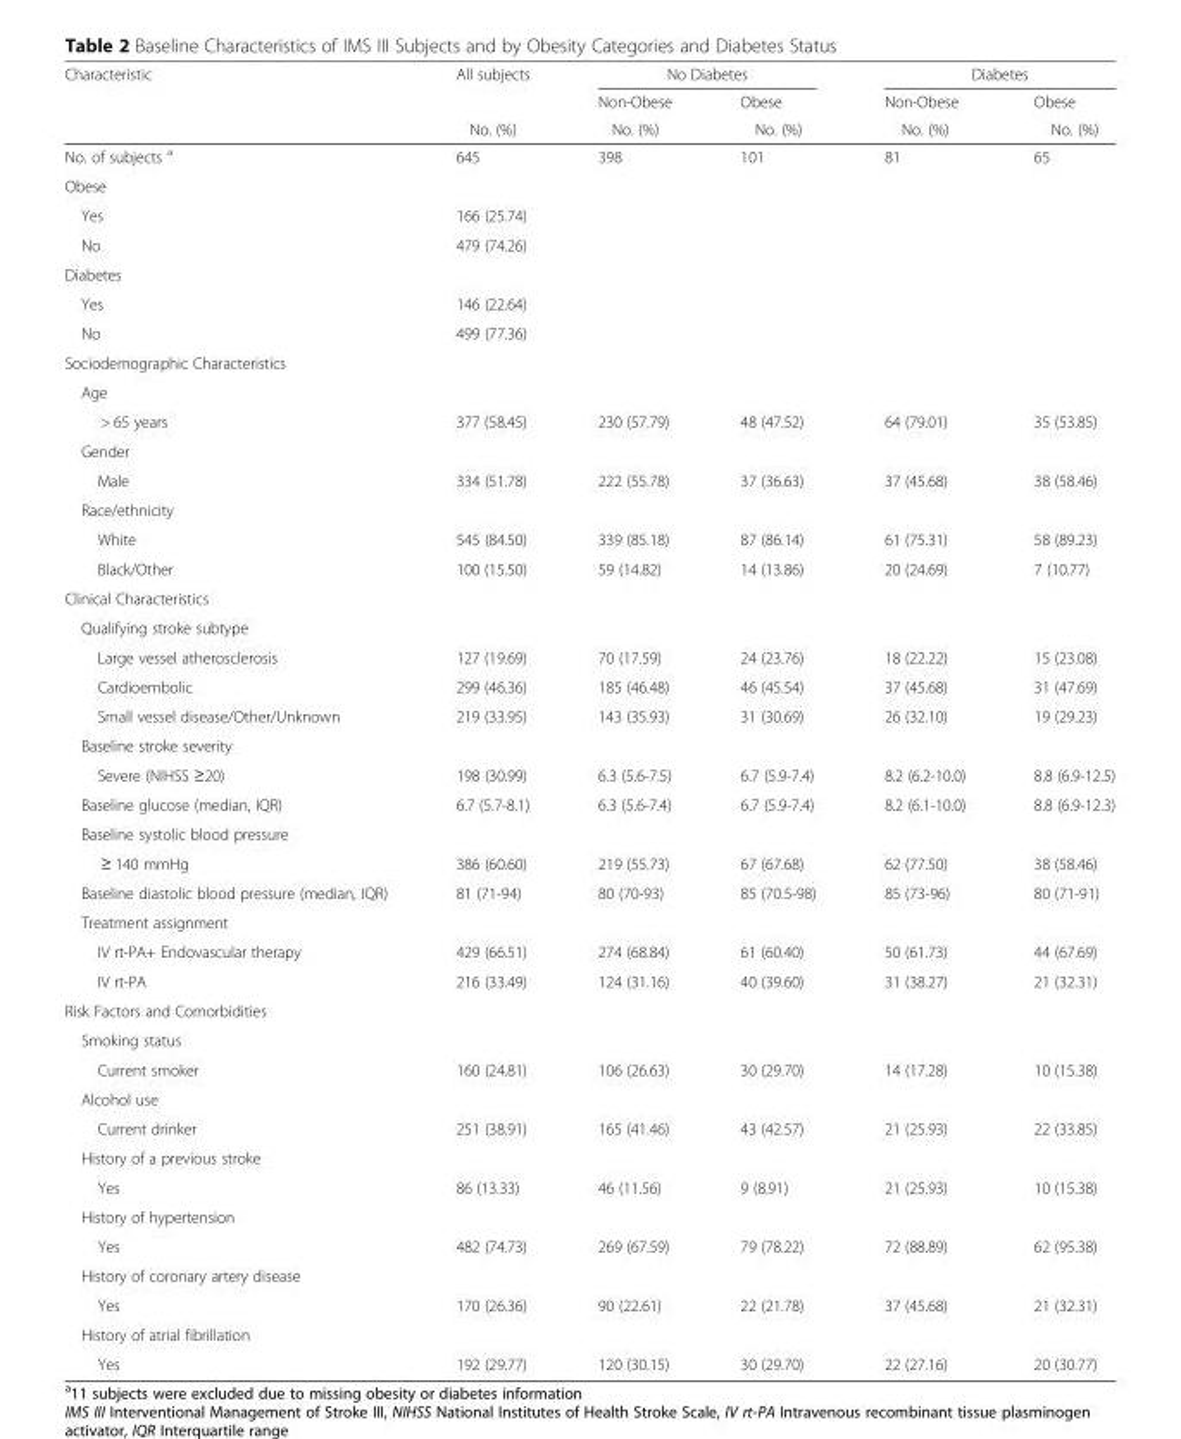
<table><thead><tr><td rowspan="3">Characteristic</td><td rowspan="3">All subjects No. (%)</td><td colspan="2">No Diabetes</td><td colspan="2">Diabetes</td></tr><tr><td rowspan="2">Non-Obese No. (%)</td><td rowspan="2">Obese No. (%)</td><td rowspan="2">Non-Obese No. (%)</td><td rowspan="2">Obese No. (%)</td></tr><tr></tr></thead><tbody><tr><td>No. of subjects <sup>a</sup></td><td>645</td><td>398</td><td>101</td><td>81</td><td>65</td></tr><tr><td colspan="6">Obese</td></tr><tr><td>Yes</td><td>166 (25.74)</td><td></td><td></td><td></td><td></td></tr><tr><td>No</td><td>479 (74.26)</td><td></td><td></td><td></td><td></td></tr><tr><td colspan="6">Diabetes</td></tr><tr><td>Yes</td><td>146 (22.64)</td><td></td><td></td><td></td><td></td></tr><tr><td>No</td><td>499 (77.36)</td><td></td><td></td><td></td><td></td></tr><tr><td colspan="6">Sociodemographic Characteristics</td></tr><tr><td colspan="6">Age</td></tr><tr><td>&gt; 65 years</td><td>377 (58.45)</td><td>230 (57.79)</td><td>48 (47.52)</td><td>64 (79.01)</td><td>35 (53.85)</td></tr><tr><td colspan="6">Gender</td></tr><tr><td>Male</td><td>334 (51.78)</td><td>222 (55.78)</td><td>37 (36.63)</td><td>37 (45.68)</td><td>38 (58.46)</td></tr><tr><td colspan="6">Race/ethnicity</td></tr><tr><td>White</td><td>545 (84.50)</td><td>339 (85.18)</td><td>87 (86.14)</td><td>61 (75.31)</td><td>58 (89.23)</td></tr><tr><td>Black/Other</td><td>100 (15.50)</td><td>59 (14.82)</td><td>14 (13.86)</td><td>20 (24.69)</td><td>7 (10.77)</td></tr><tr><td colspan="6">Clinical Characteristics</td></tr><tr><td colspan="6">Qualifying stroke subtype</td></tr><tr><td>Large vessel atherosclerosis</td><td>127 (19.69)</td><td>70 (17.59)</td><td>24 (23.76)</td><td>18 (22.22)</td><td>15 (23.08)</td></tr><tr><td>Cardioembolic</td><td>299 (46.36)</td><td>185 (46.48)</td><td>46 (45.54)</td><td>37 (45.68)</td><td>31 (47.69)</td></tr><tr><td>Small vessel disease/Other/Unknown</td><td>219 (33.95)</td><td>143 (35.93)</td><td>31 (30.69)</td><td>26 (32.10)</td><td>19 (29.23)</td></tr><tr><td colspan="6">Baseline stroke severity</td></tr><tr><td>Severe (NIHSS ≥20)</td><td>198 (30.99)</td><td>6.3 (5.6-7.5)</td><td>6.7 (5.9-7.4)</td><td>8.2 (6.2-10.0)</td><td>8.8 (6.9-12.5)</td></tr><tr><td>Baseline glucose (median, IQR)</td><td>6.7 (5.7-8.1)</td><td>6.3 (5.6-7.4)</td><td>6.7 (5.9-7.4)</td><td>8.2 (6.1-10.0)</td><td>8.8 (6.9-12.3)</td></tr><tr><td colspan="6">Baseline systolic blood pressure</td></tr><tr><td>≥ 140 mmHg</td><td>386 (60.60)</td><td>219 (55.73)</td><td>67 (67.68)</td><td>62 (77.50)</td><td>38 (58.46)</td></tr><tr><td>Baseline diastolic blood pressure (median, IQR)</td><td>81 (71-94)</td><td>80 (70-93)</td><td>85 (70.5-98)</td><td>85 (73-96)</td><td>80 (71-91)</td></tr><tr><td colspan="6">Treatment assignment</td></tr><tr><td>IV rt-PA+ Endovascular therapy</td><td>429 (66.51)</td><td>274 (68.84)</td><td>61 (60.40)</td><td>50 (61.73)</td><td>44 (67.69)</td></tr><tr><td>IV rt-PA</td><td>216 (33.49)</td><td>124 (31.16)</td><td>40 (39.60)</td><td>31 (38.27)</td><td>21 (32.31)</td></tr><tr><td colspan="6">Risk Factors and Comorbidities</td></tr><tr><td colspan="6">Smoking status</td></tr><tr><td>Current smoker</td><td>160 (24.81)</td><td>106 (26.63)</td><td>30 (29.70)</td><td>14 (17.28)</td><td>10 (15.38)</td></tr><tr><td colspan="6">Alcohol use</td></tr><tr><td>Current drinker</td><td>251 (38.91)</td><td>165 (41.46)</td><td>43 (42.57)</td><td>21 (25.93)</td><td>22 (33.85)</td></tr><tr><td colspan="6">History of a previous stroke</td></tr><tr><td>Yes</td><td>86 (13.33)</td><td>46 (11.56)</td><td>9 (8.91)</td><td>21 (25.93)</td><td>10 (15.38)</td></tr><tr><td colspan="6">History of hypertension</td></tr><tr><td>Yes</td><td>482 (74.73)</td><td>269 (67.59)</td><td>79 (78.22)</td><td>72 (88.89)</td><td>62 (95.38)</td></tr><tr><td colspan="6">History of coronary artery disease</td></tr><tr><td>Yes</td><td>170 (26.36)</td><td>90 (22.61)</td><td>22 (21.78)</td><td>37 (45.68)</td><td>21 (32.31)</td></tr><tr><td colspan="6">History of atrial fibrillation</td></tr><tr><td>Yes</td><td>192 (29.77)</td><td>120 (30.15)</td><td>30 (29.70)</td><td>22 (27.16)</td><td>20 (30.77)</td></tr></tbody></table>